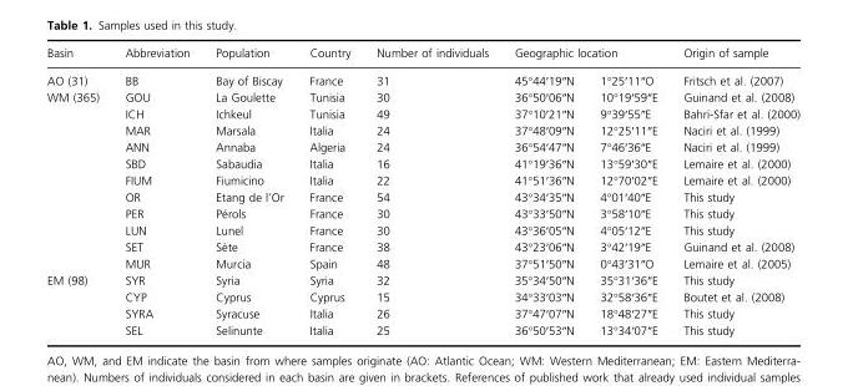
<table><thead><tr><td rowspan="2">Basin AO (31)</td><td rowspan="2">Abbreviation BB</td><td rowspan="2">Population Bay of Biscay</td><td rowspan="2">Country France</td><td rowspan="2">Number of individuals 31</td><td colspan="2">Geographic location</td><td rowspan="2">Origin of sample Fritsch et al. (2007)</td></tr><tr><td>45°44′19″N</td><td>1°25′11″O</td></tr></thead><tbody><tr><td rowspan="11">WM (365)</td><td>GOU</td><td>La Goulette</td><td>Tunisia</td><td>30</td><td>36°50′06″N</td><td>10°19′59″E</td><td>Guinand et al. (2008)</td></tr><tr><td>ICH</td><td>Ichkeul</td><td>Tunisia</td><td>49</td><td>37°10′21″N</td><td>9°39′55″E</td><td>Bahri-Sfar et al. (2000)</td></tr><tr><td>MAR</td><td>Marsala</td><td>Italia</td><td>24</td><td>37°48′09″N</td><td>12°25′11″E</td><td>Naciri et al. (1999)</td></tr><tr><td>ANN</td><td>Annaba</td><td>Algeria</td><td>24</td><td>36°54′47″N</td><td>7°46′36″E</td><td>Naciri et al. (1999)</td></tr><tr><td>SBD</td><td>Sabaudia</td><td>Italia</td><td>16</td><td>41°19′36″N</td><td>13°59′30″E</td><td>Lemaire et al. (2000)</td></tr><tr><td>FIUM</td><td>Fiumicino</td><td>Italia</td><td>22</td><td>41°51′36″N</td><td>12°70′02″E</td><td>Lemaire et al. (2000)</td></tr><tr><td>OR</td><td>Etang de l’Or</td><td>France</td><td>54</td><td>43°34′35″N</td><td>4°01′40″E</td><td>This study</td></tr><tr><td>PER</td><td>Pe´rols</td><td>France</td><td>30</td><td>43°33′50″N</td><td>3°58′10″E</td><td>This study</td></tr><tr><td>LUN</td><td>Lunel</td><td>France</td><td>30</td><td>43°36′05″N</td><td>4°05′12″E</td><td>This study</td></tr><tr><td>SET</td><td>Se`te</td><td>France</td><td>38</td><td>43°23′06″N</td><td>3°42′19″E</td><td>Guinand et al. (2008)</td></tr><tr><td>MUR</td><td>Murcia</td><td>Spain</td><td>48</td><td>37°51′50″N</td><td>0°43′31″O</td><td>Lemaire et al. (2005)</td></tr><tr><td rowspan="4">EM (98)</td><td>SYR</td><td>Syria</td><td>Syria</td><td>32</td><td>35°34′50″N</td><td>35°31′36″E</td><td>This study</td></tr><tr><td>CYP</td><td>Cyprus</td><td>Cyprus</td><td>15</td><td>34°33′03″N</td><td>32°58′36″E</td><td>Boutet et al. (2008)</td></tr><tr><td>SYRA</td><td>Syracuse</td><td>Italia</td><td>26</td><td>37°47′07″N</td><td>18°48′27″E</td><td>This study</td></tr><tr><td>SEL</td><td>Selinunte</td><td>Italia</td><td>25</td><td>36°50′53″N</td><td>13°34′07″E</td><td>This study</td></tr></tbody></table>